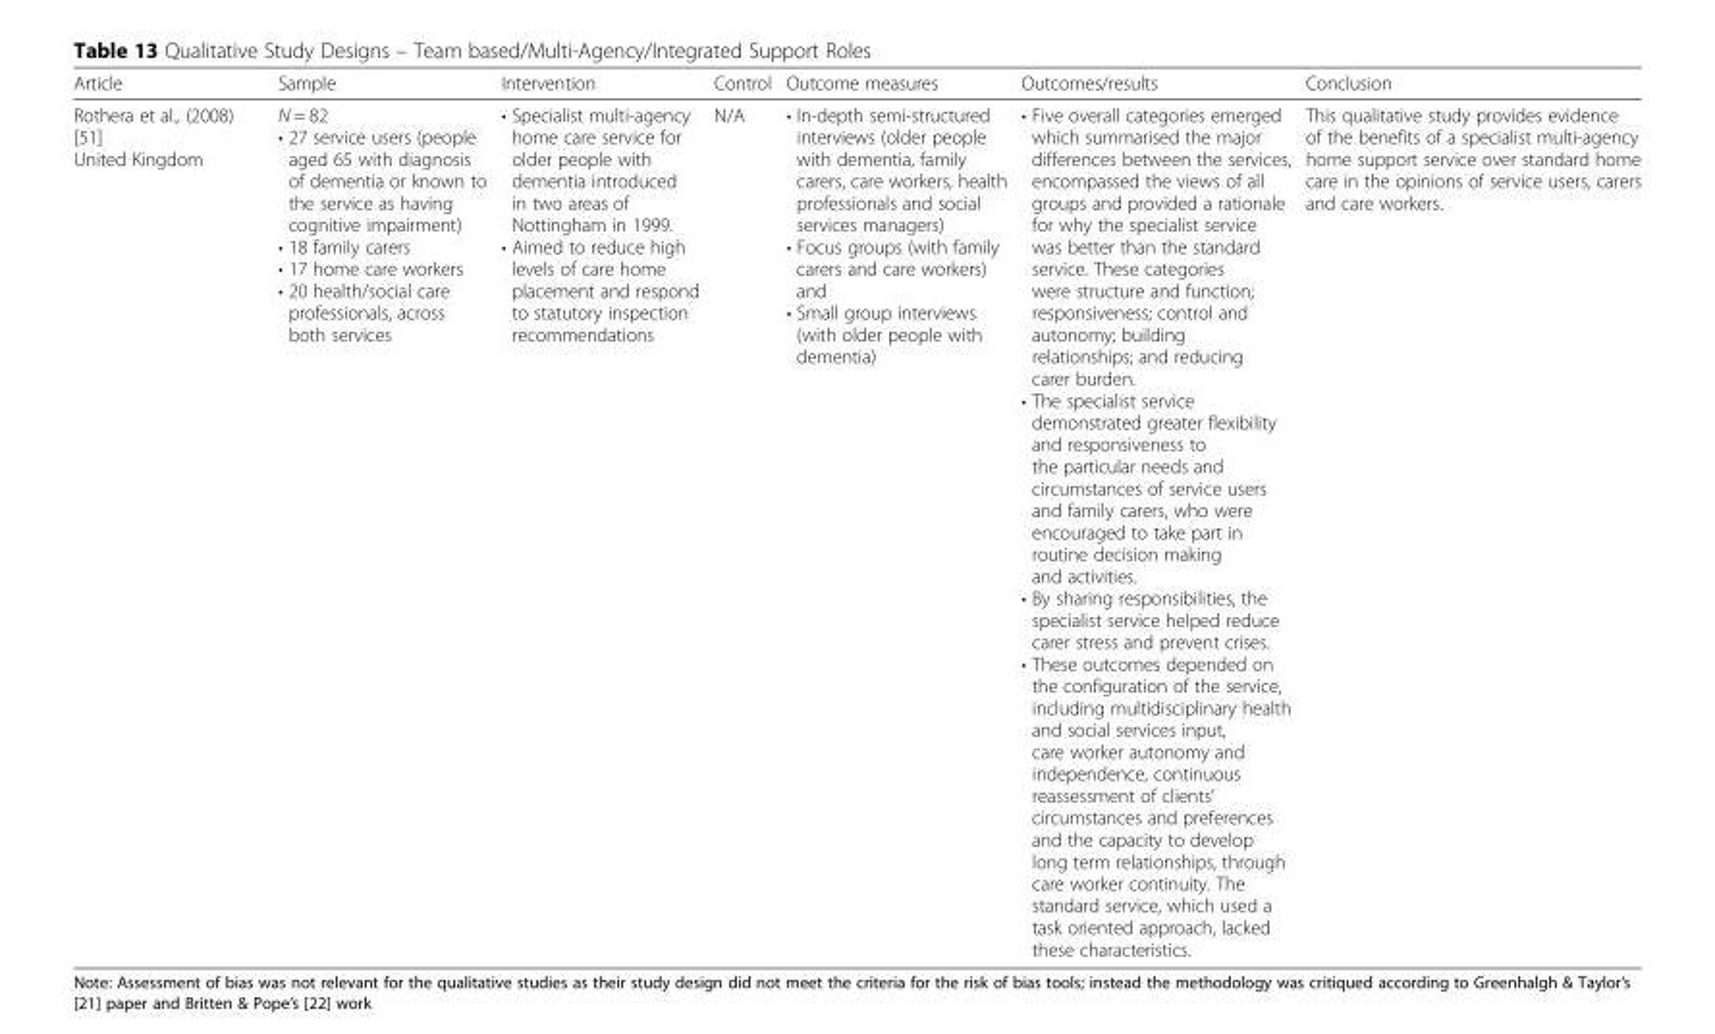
<table><thead><tr><td>Article</td><td>Sample</td><td>Intervention</td><td>Control</td><td>Outcome measures</td><td>Outcomes/results</td><td>Conclusion</td></tr></thead><tbody><tr><td>Rothera et al., (2008) [51] United Kingdom</td><td>N = 82 • 27 service users (people aged 65 with diagnosis of dementia or known to the service as having cognitive impairment) • 18 family carers • 17 home care workers • 20 health/social care professionals, across both services</td><td>• Specialist multi-agency home care service for older people with dementia introduced in two areas of Nottingham in 1999. • Aimed to reduce high levels of care home placement and respond to statutory inspection recommendations</td><td>N/A</td><td>• In-depth semi-structured interviews (older people with dementia, family carers, care workers, health professionals and social services managers) • Focus groups (with family carers and care workers) and • Small group interviews (with older people with dementia)</td><td>• Five overall categories emerged which summarised the major differences between the services, encompassed the views of all groups and provided a rationale for why the specialist service was better than the standard service. These categories were structure and function; responsiveness; control and autonomy; building relationships; and reducing carer burden. • The specialist service demonstrated greater flexibility and responsiveness to the particular needs and circumstances of service users and family carers, who were encouraged to take part in routine decision making and activities. • By sharing responsibilities, the specialist service helped reduce carer stress and prevent crises. • These outcomes depended on the configuration of the service, including multidisciplinary health and social services input, care worker autonomy and independence, continuous reassessment of clients’ circumstances and preferences and the capacity to develop long term relationships, through care worker continuity. The standard service, which used a task oriented approach, lacked these characteristics.</td><td>This qualitative study provides evidence of the benefits of a specialist multi-agency home support service over standard home care in the opinions of service users, carers and care workers.</td></tr></tbody></table>